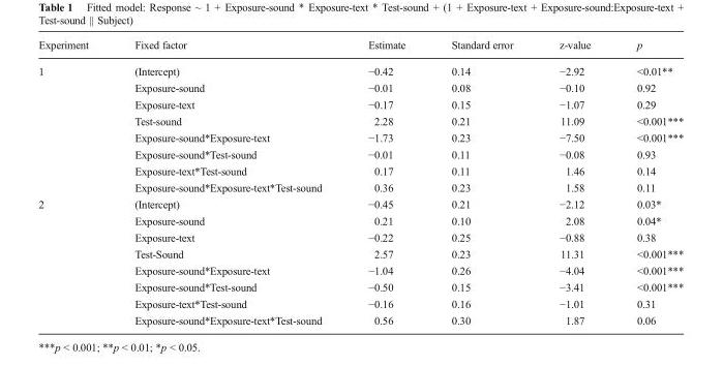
<table><thead><tr><td>Experiment</td><td>Fixed factor</td><td>Estimate</td><td>Standard error</td><td>z-value</td><td>p</td></tr></thead><tbody><tr><td rowspan="8">1</td><td>(Intercept)</td><td>−0.42</td><td>0.14</td><td>−2.92</td><td>&lt;0.01**</td></tr><tr><td>Exposure-sound</td><td>−0.01</td><td>0.08</td><td>−0.10</td><td>0.92</td></tr><tr><td>Exposure-text</td><td>−0.17</td><td>0.15</td><td>−1.07</td><td>0.29</td></tr><tr><td>Test-sound</td><td>2.28</td><td>0.21</td><td>11.09</td><td>&lt;0.001***</td></tr><tr><td>Exposure-sound*Exposure-text</td><td>−1.73</td><td>0.23</td><td>−7.50</td><td>&lt;0.001***</td></tr><tr><td>Exposure-sound*Test-sound</td><td>−0.01</td><td>0.11</td><td>−0.08</td><td>0.93</td></tr><tr><td>Exposure-text*Test-sound</td><td>0.17</td><td>0.11</td><td>1.46</td><td>0.14</td></tr><tr><td>Exposure-sound*Exposure-text*Test-sound</td><td>0.36</td><td>0.23</td><td>1.58</td><td>0.11</td></tr><tr><td rowspan="8">2</td><td>(Intercept)</td><td>−0.45</td><td>0.21</td><td>−2.12</td><td>0.03*</td></tr><tr><td>Exposure-sound</td><td>0.21</td><td>0.10</td><td>2.08</td><td>0.04*</td></tr><tr><td>Exposure-text</td><td>−0.22</td><td>0.25</td><td>−0.88</td><td>0.38</td></tr><tr><td>Test-Sound</td><td>2.57</td><td>0.23</td><td>11.31</td><td>&lt;0.001***</td></tr><tr><td>Exposure-sound*Exposure-text</td><td>−1.04</td><td>0.26</td><td>−4.04</td><td>&lt;0.001***</td></tr><tr><td>Exposure-sound*Test-sound</td><td>−0.50</td><td>0.15</td><td>−3.41</td><td>&lt;0.001***</td></tr><tr><td>Exposure-text*Test-sound</td><td>−0.16</td><td>0.16</td><td>−1.01</td><td>0.31</td></tr><tr><td>Exposure-sound*Exposure-text*Test-sound</td><td>0.56</td><td>0.30</td><td>1.87</td><td>0.06</td></tr></tbody></table>